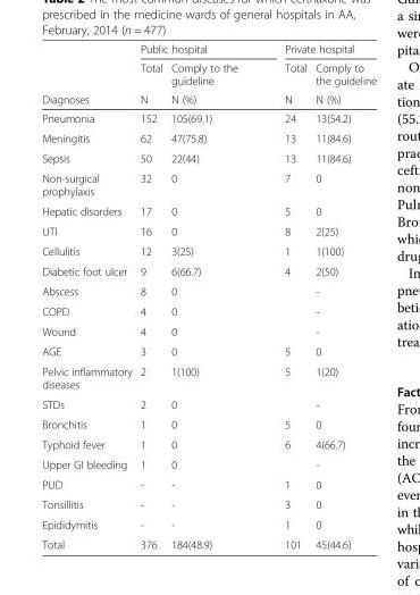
<table><thead><tr><td rowspan="3">Diagnoses</td><td colspan="2">Public hospital</td><td colspan="2">Private hospital</td></tr><tr><td rowspan="2">Total N</td><td rowspan="2">Comply to the guideline N (%)</td><td rowspan="2">Total N</td><td rowspan="2">Comply to the guideline N (%)</td></tr><tr></tr></thead><tbody><tr><td>Pneumonia</td><td>152</td><td>105(69.1)</td><td>24</td><td>13(54.2)</td></tr><tr><td>Meningitis</td><td>62</td><td>47(75.8)</td><td>13</td><td>11(84.6)</td></tr><tr><td>Sepsis</td><td>50</td><td>22(44)</td><td>13</td><td>11(84.6)</td></tr><tr><td>Non-surgical prophylaxis</td><td>32</td><td>0</td><td>7</td><td>0</td></tr><tr><td>Hepatic disorders</td><td>17</td><td>0</td><td>5</td><td>0</td></tr><tr><td>UTI</td><td>16</td><td>0</td><td>8</td><td>2(25)</td></tr><tr><td>Cellulitis</td><td>12</td><td>3(25)</td><td>1</td><td>1(100)</td></tr><tr><td>Diabetic foot ulcer</td><td>9</td><td>6(66.7)</td><td>4</td><td>2(50)</td></tr><tr><td>Abscess</td><td>8</td><td>0</td><td></td><td>-</td></tr><tr><td>COPD</td><td>4</td><td>0</td><td></td><td>-</td></tr><tr><td>Wound</td><td>4</td><td>0</td><td></td><td>-</td></tr><tr><td>AGE</td><td>3</td><td>0</td><td>5</td><td>0</td></tr><tr><td>Pelvic inflammatory diseases</td><td>2</td><td>1(100)</td><td>5</td><td>1(20)</td></tr><tr><td>STDs</td><td>2</td><td>0</td><td></td><td>-</td></tr><tr><td>Bronchitis</td><td>1</td><td>0</td><td>5</td><td>0</td></tr><tr><td>Typhoid fever</td><td>1</td><td>0</td><td>6</td><td>4(66.7)</td></tr><tr><td>Upper GI bleeding</td><td>1</td><td>0</td><td></td><td>-</td></tr><tr><td>PUD</td><td>-</td><td>-</td><td>1</td><td>0</td></tr><tr><td>Tonsillitis</td><td>-</td><td>-</td><td>3</td><td>0</td></tr><tr><td>Epididymitis</td><td>-</td><td>-</td><td>1</td><td>0</td></tr><tr><td>Total</td><td>376</td><td>184(48.9)</td><td>101</td><td>45(44.6)</td></tr></tbody></table>